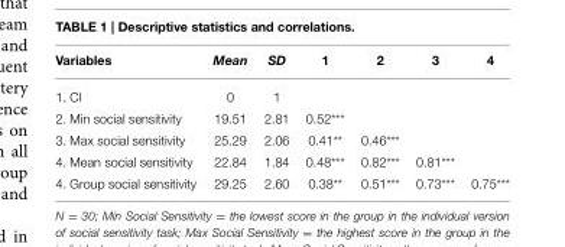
<table><thead><tr><td>Variables</td><td>Mean</td><td>SD</td><td>1</td><td>2</td><td>3</td><td>4</td></tr></thead><tbody><tr><td>1. CI</td><td>0</td><td>1</td><td></td><td></td><td></td><td></td></tr><tr><td>2. Min social sensitivity</td><td>19.51</td><td>2.81</td><td>0.52***</td><td></td><td></td><td></td></tr><tr><td>3. Max social sensitivity</td><td>25.29</td><td>2.06</td><td>0.41**</td><td>0.46***</td><td></td><td></td></tr><tr><td>4. Mean social sensitivity</td><td>22.84</td><td>1.84</td><td>0.48***</td><td>0.82***</td><td>0.81***</td><td></td></tr><tr><td>4. Group social sensitivity</td><td>29.25</td><td>2.60</td><td>0.38**</td><td>0.51***</td><td>0.73***</td><td>0.75***</td></tr></tbody></table>